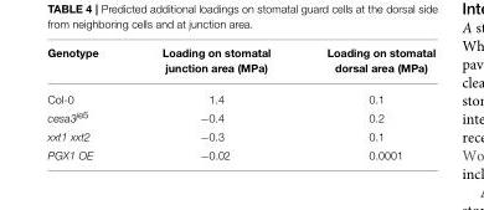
<table><thead><tr><td>Genotype</td><td>Loading on stomatal junction area (MPa)</td><td>Loading on stomatal dorsal area (MPa)</td></tr></thead><tbody><tr><td>Col-0</td><td>1.4</td><td>0.1</td></tr><tr><td>cesa3je5</td><td>−0.4</td><td>0.2</td></tr><tr><td>xxt1 xxt2</td><td>−0.3</td><td>0.1</td></tr><tr><td>PGX1 OE</td><td>−0.02</td><td>0.0001</td></tr></tbody></table>